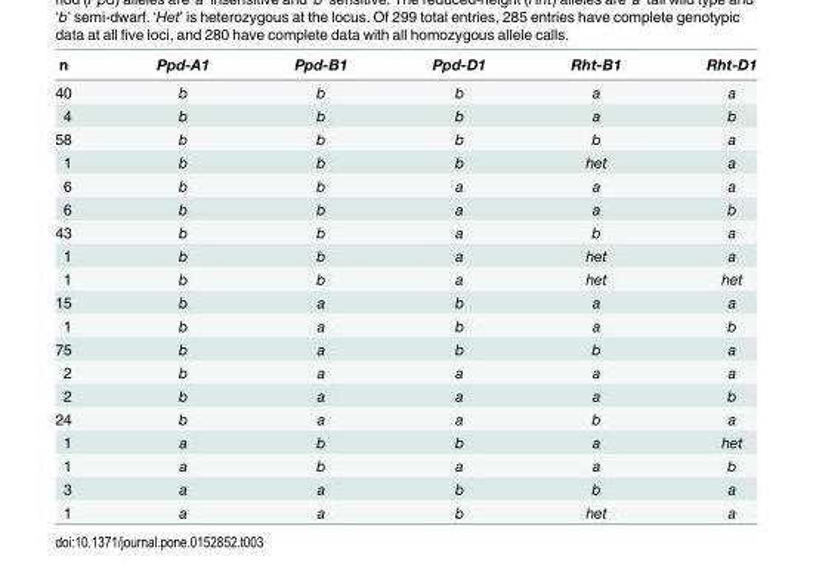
<table><thead><tr><td>n</td><td>Ppd-A1</td><td>Ppd-B1</td><td>Ppd-D1</td><td>Rht-B1</td><td>Rht-D1</td></tr></thead><tbody><tr><td>40</td><td>b</td><td>b</td><td>b</td><td>a</td><td>a</td></tr><tr><td>4</td><td>b</td><td>b</td><td>b</td><td>a</td><td>b</td></tr><tr><td>58</td><td>b</td><td>b</td><td>b</td><td>b</td><td>a</td></tr><tr><td>1</td><td>b</td><td>b</td><td>b</td><td>het</td><td>a</td></tr><tr><td>6</td><td>b</td><td>b</td><td>a</td><td>a</td><td>a</td></tr><tr><td>6</td><td>b</td><td>b</td><td>a</td><td>a</td><td>b</td></tr><tr><td>43</td><td>b</td><td>b</td><td>a</td><td>b</td><td>a</td></tr><tr><td>1</td><td>b</td><td>b</td><td>a</td><td>het</td><td>a</td></tr><tr><td>1</td><td>b</td><td>b</td><td>a</td><td>het</td><td>het</td></tr><tr><td>15</td><td>b</td><td>a</td><td>b</td><td>a</td><td>a</td></tr><tr><td>1</td><td>b</td><td>a</td><td>b</td><td>a</td><td>b</td></tr><tr><td>75</td><td>b</td><td>a</td><td>b</td><td>b</td><td>a</td></tr><tr><td>2</td><td>b</td><td>a</td><td>a</td><td>a</td><td>a</td></tr><tr><td>2</td><td>b</td><td>a</td><td>a</td><td>a</td><td>b</td></tr><tr><td>24</td><td>b</td><td>a</td><td>a</td><td>b</td><td>a</td></tr><tr><td>1</td><td>a</td><td>b</td><td>b</td><td>a</td><td>het</td></tr><tr><td>1</td><td>a</td><td>b</td><td>a</td><td>a</td><td>b</td></tr><tr><td>3</td><td>a</td><td>a</td><td>b</td><td>b</td><td>a</td></tr><tr><td>1</td><td>a</td><td>a</td><td>b</td><td>het</td><td>a</td></tr></tbody></table>